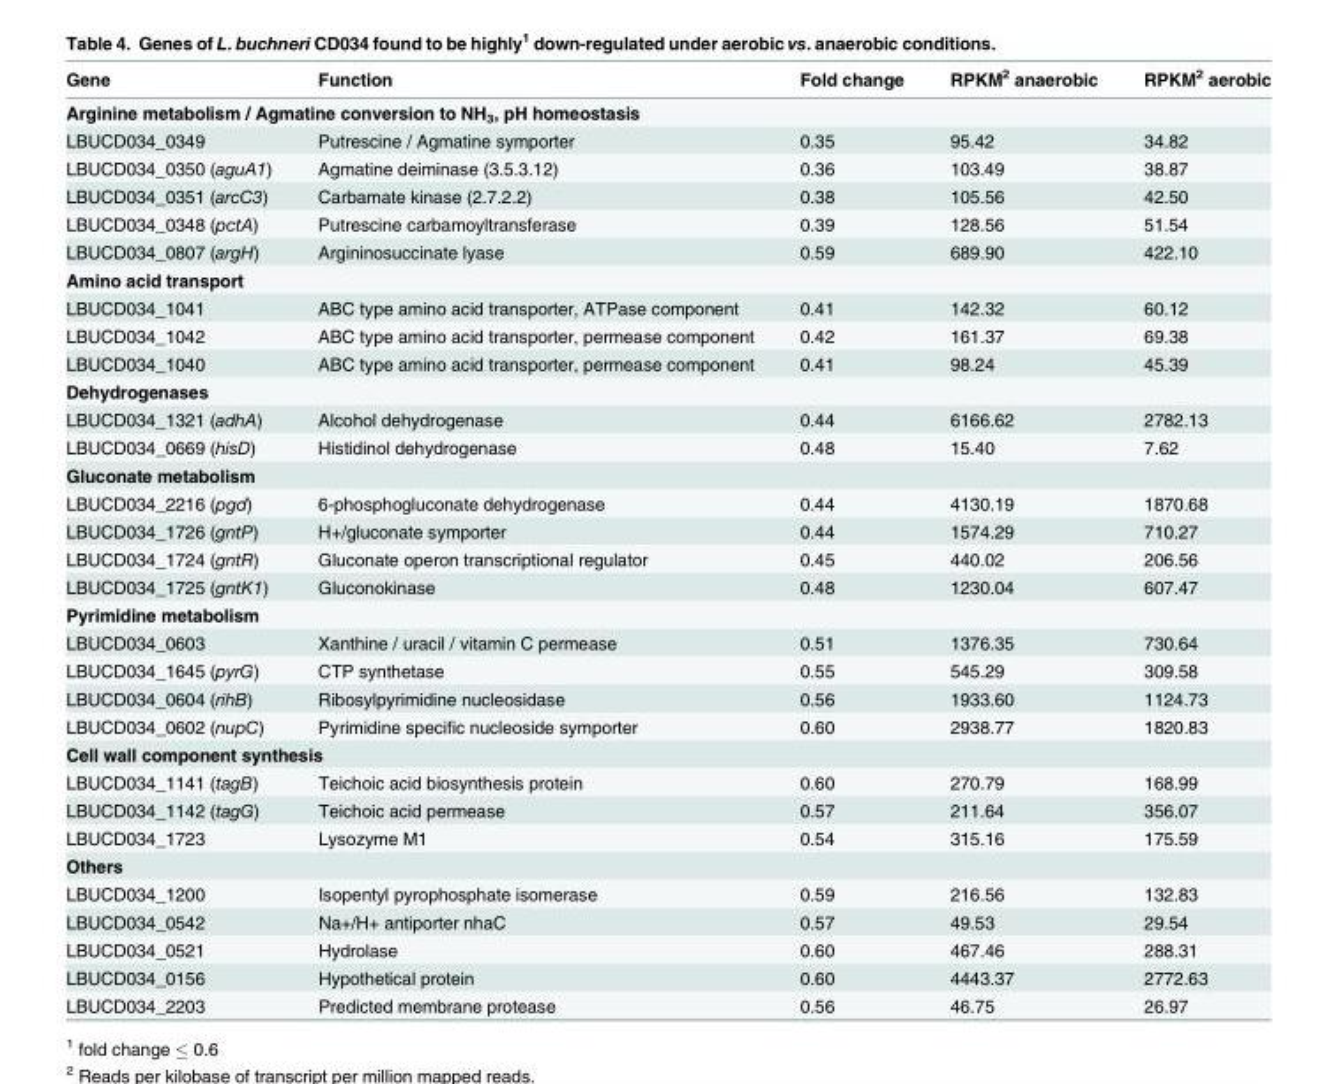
<table><thead><tr><td>Gene</td><td>Function</td><td>Fold change</td><td>RPKM<sup>2</sup> anaerobic</td><td>RPKM<sup>2</sup> aerobic</td></tr></thead><tbody><tr><td colspan="5">Arginine metabolism / Agmatine conversion to NH<sub>3</sub>, pH homeostasis</td></tr><tr><td>LBUCD034_0349</td><td>Putrescine / Agmatine symporter</td><td>0.35</td><td>95.42</td><td>34.82</td></tr><tr><td>LBUCD034_0350 (aguA1)</td><td>Agmatine deiminase (3.5.3.12)</td><td>0.36</td><td>103.49</td><td>38.87</td></tr><tr><td>LBUCD034_0351 (arcC3)</td><td>Carbamate kinase (2.7.2.2)</td><td>0.38</td><td>105.56</td><td>42.50</td></tr><tr><td>LBUCD034_0348 (pctA)</td><td>Putrescine carbamoyltransferase</td><td>0.39</td><td>128.56</td><td>51.54</td></tr><tr><td>LBUCD034_0807 (argH)</td><td>Argininosuccinate lyase</td><td>0.59</td><td>689.90</td><td>422.10</td></tr><tr><td colspan="5">Amino acid transport</td></tr><tr><td>LBUCD034_1041</td><td>ABC type amino acid transporter, ATPase component</td><td>0.41</td><td>142.32</td><td>60.12</td></tr><tr><td>LBUCD034_1042</td><td>ABC type amino acid transporter, permease component</td><td>0.42</td><td>161.37</td><td>69.38</td></tr><tr><td>LBUCD034_1040</td><td>ABC type amino acid transporter, permease component</td><td>0.41</td><td>98.24</td><td>45.39</td></tr><tr><td colspan="5">Dehydrogenases</td></tr><tr><td>LBUCD034_1321 (adhA)</td><td>Alcohol dehydrogenase</td><td>0.44</td><td>6166.62</td><td>2782.13</td></tr><tr><td>LBUCD034_0669 (hisD)</td><td>Histidinol dehydrogenase</td><td>0.48</td><td>15.40</td><td>7.62</td></tr><tr><td colspan="5">Gluconate metabolism</td></tr><tr><td>LBUCD034_2216 (pgd)</td><td>6-phosphogluconate dehydrogenase</td><td>0.44</td><td>4130.19</td><td>1870.68</td></tr><tr><td>LBUCD034_1726 (gntP)</td><td>H+/gluconate symporter</td><td>0.44</td><td>1574.29</td><td>710.27</td></tr><tr><td>LBUCD034_1724 (gntR)</td><td>Gluconate operon transcriptional regulator</td><td>0.45</td><td>440.02</td><td>206.56</td></tr><tr><td>LBUCD034_1725 (gntK1)</td><td>Gluconokinase</td><td>0.48</td><td>1230.04</td><td>607.47</td></tr><tr><td colspan="5">Pyrimidine metabolism</td></tr><tr><td>LBUCD034_0603</td><td>Xanthine / uracil / vitamin C permease</td><td>0.51</td><td>1376.35</td><td>730.64</td></tr><tr><td>LBUCD034_1645 (pyrG)</td><td>CTP synthetase</td><td>0.55</td><td>545.29</td><td>309.58</td></tr><tr><td>LBUCD034_0604 (rihB)</td><td>Ribosylpyrimidine nucleosidase</td><td>0.56</td><td>1933.60</td><td>1124.73</td></tr><tr><td>LBUCD034_0602 (nupC)</td><td>Pyrimidine specific nucleoside symporter</td><td>0.60</td><td>2938.77</td><td>1820.83</td></tr><tr><td colspan="5">Cell wall component synthesis</td></tr><tr><td>LBUCD034_1141 (tagB)</td><td>Teichoic acid biosynthesis protein</td><td>0.60</td><td>270.79</td><td>168.99</td></tr><tr><td>LBUCD034_1142 (tagG)</td><td>Teichoic acid permease</td><td>0.57</td><td>211.64</td><td>356.07</td></tr><tr><td>LBUCD034_1723</td><td>Lysozyme M1</td><td>0.54</td><td>315.16</td><td>175.59</td></tr><tr><td colspan="5">Others</td></tr><tr><td>LBUCD034_1200</td><td>Isopentyl pyrophosphate isomerase</td><td>0.59</td><td>216.56</td><td>132.83</td></tr><tr><td>LBUCD034_0542</td><td>Na+/H+ antiporter nhaC</td><td>0.57</td><td>49.53</td><td>29.54</td></tr><tr><td>LBUCD034_0521</td><td>Hydrolase</td><td>0.60</td><td>467.46</td><td>288.31</td></tr><tr><td>LBUCD034_0156</td><td>Hypothetical protein</td><td>0.60</td><td>4443.37</td><td>2772.63</td></tr><tr><td>LBUCD034_2203</td><td>Predicted membrane protease</td><td>0.56</td><td>46.75</td><td>26.97</td></tr></tbody></table>